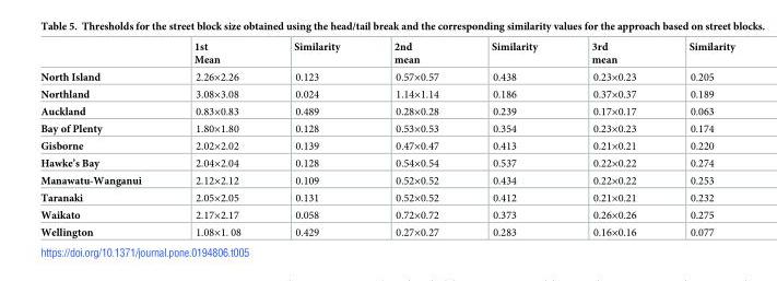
<table><thead><tr><td></td><td>1st Mean</td><td>Similarity</td><td>2nd mean</td><td>Similarity</td><td>3rd mean</td><td>Similarity</td></tr></thead><tbody><tr><td>North Island</td><td>2.26×2.26</td><td>0.123</td><td>0.57×0.57</td><td>0.438</td><td>0.23×0.23</td><td>0.205</td></tr><tr><td>Northland</td><td>3.08×3.08</td><td>0.024</td><td>1.14×1.14</td><td>0.186</td><td>0.37×0.37</td><td>0.189</td></tr><tr><td>Auckland</td><td>0.83×0.83</td><td>0.489</td><td>0.28×0.28</td><td>0.239</td><td>0.17×0.17</td><td>0.063</td></tr><tr><td>Bay of Plenty</td><td>1.80×1.80</td><td>0.128</td><td>0.53×0.53</td><td>0.354</td><td>0.23×0.23</td><td>0.174</td></tr><tr><td>Gisborne</td><td>2.02×2.02</td><td>0.139</td><td>0.47×0.47</td><td>0.413</td><td>0.21×0.21</td><td>0.220</td></tr><tr><td>Hawke’s Bay</td><td>2.04×2.04</td><td>0.128</td><td>0.54×0.54</td><td>0.537</td><td>0.22×0.22</td><td>0.274</td></tr><tr><td>Manawatu-Wanganui</td><td>2.12×2.12</td><td>0.109</td><td>0.52×0.52</td><td>0.434</td><td>0.22×0.22</td><td>0.253</td></tr><tr><td>Taranaki</td><td>2.05×2.05</td><td>0.131</td><td>0.52×0.52</td><td>0.412</td><td>0.21×0.21</td><td>0.232</td></tr><tr><td>Waikato</td><td>2.17×2.17</td><td>0.058</td><td>0.72×0.72</td><td>0.373</td><td>0.26×0.26</td><td>0.275</td></tr><tr><td>Wellington</td><td>1.08×1. 08</td><td>0.429</td><td>0.27×0.27</td><td>0.283</td><td>0.16×0.16</td><td>0.077</td></tr></tbody></table>